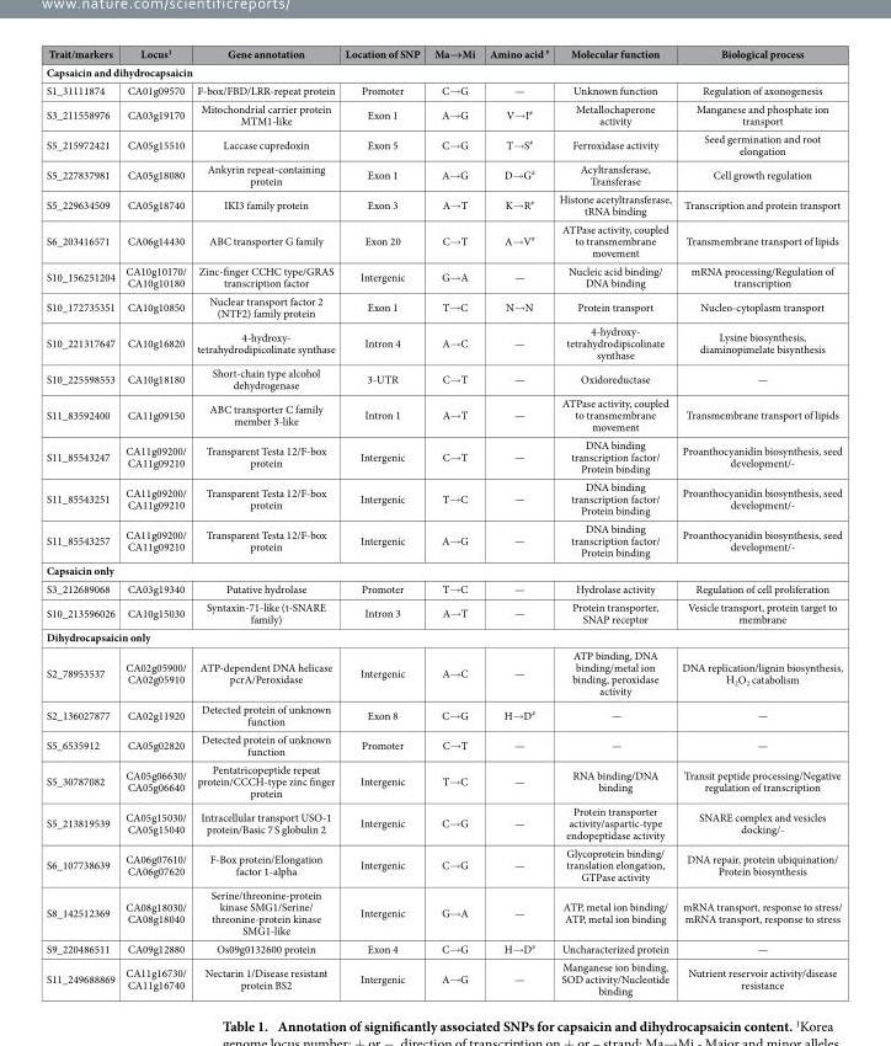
<table><thead><tr><td>Trait/markers</td><td>Locus<sup>1</sup></td><td>Gene annotation</td><td>Location of SNP</td><td>Ma→Mi</td><td>Amino acid <sup>#</sup></td><td>Molecular function</td><td>Biological process</td></tr></thead><tbody><tr><td colspan="8">Capsaicin and dihydrocapsaicin</td></tr><tr><td>S1_31111874</td><td>CA01g09570</td><td>F-box/FBD/LRR-repeat protein</td><td>Promoter</td><td>C→ G</td><td>—</td><td>Unknown function</td><td>Regulation of axonogenesis</td></tr><tr><td>S3_211558976</td><td>CA03g19170</td><td>Mitochondrial carrier protein MTM1-like</td><td>Exon 1</td><td>A→ G</td><td>V→ I<sup>#</sup></td><td>Metallochaperone activity</td><td>Manganese and phosphate ion transport</td></tr><tr><td>S5_215972421</td><td>CA05g15510</td><td>Laccase cupredoxin</td><td>Exon 5</td><td>C→ G</td><td>T→ S<sup>#</sup></td><td>Ferroxidase activity</td><td>Seed germination and root elongation</td></tr><tr><td>S5_227837981</td><td>CA05g18080</td><td>Ankyrin repeat-containing protein</td><td>Exon 1</td><td>A→ G</td><td>D→ G<sup>#</sup></td><td>Acyltransferase, Transferase</td><td>Cell growth regulation</td></tr><tr><td>S5_229634509</td><td>CA05g18740</td><td>IKI3 family protein</td><td>Exon 3</td><td>A→ T</td><td>K→ R<sup>#</sup></td><td>Histone acetyltransferase, tRNA binding</td><td>Transcription and protein transport</td></tr><tr><td>S6_203416571</td><td>CA06g14430</td><td>ABC transporter G family</td><td>Exon 20</td><td>C→ T</td><td>A→ V<sup>#</sup></td><td>ATPase activity, coupled to transmembrane movement</td><td>Transmembrane transport of lipids</td></tr><tr><td>S10_156251204</td><td>CA10g10170/ CA10g10180</td><td>Zinc-finger CCHC type/GRAS transcription factor</td><td>Intergenic</td><td>G→ A</td><td>—</td><td>Nucleic acid binding/ DNA binding</td><td>mRNA processing/Regulation of transcription</td></tr><tr><td>S10_172735351</td><td>CA10g10850</td><td>Nuclear transport factor 2 (NTF2) family protein</td><td>Exon 1</td><td>T→ C</td><td>N→ N</td><td>Protein transport</td><td>Nucleo-cytoplasm transport</td></tr><tr><td>S10_221317647</td><td>CA10g16820</td><td>4-hydroxy- tetrahydrodipicolinate synthase</td><td>Intron 4</td><td>A→ C</td><td>—</td><td>4-hydroxy- tetrahydrodipicolinate synthase</td><td>Lysine biosynthesis, diaminopimelate bisynthesis</td></tr><tr><td>S10_225598553</td><td>CA10g18180</td><td>Short-chain type alcohol dehydrogenase</td><td>3-UTR</td><td>C→ T</td><td>—</td><td>Oxidoreductase</td><td>—</td></tr><tr><td>S11_83592400</td><td>CA11g09150</td><td>ABC transporter C family member 3-like</td><td>Intron 1</td><td>A→ T</td><td>—</td><td>ATPase activity, coupled to transmembrane movement</td><td>Transmembrane transport of lipids</td></tr><tr><td>S11_85543247</td><td>CA11g09200/ CA11g09210</td><td>Transparent Testa 12/F-box protein</td><td>Intergenic</td><td>C→ T</td><td>—</td><td>DNA binding transcription factor/ Protein binding</td><td>Proanthocyanidin biosynthesis, seed development/-</td></tr><tr><td>S11_85543251</td><td>CA11g09200/ CA11g09210</td><td>Transparent Testa 12/F-box protein</td><td>Intergenic</td><td>T→ C</td><td>—</td><td>DNA binding transcription factor/ Protein binding</td><td>Proanthocyanidin biosynthesis, seed development/-</td></tr><tr><td>S11_85543257</td><td>CA11g09200/ CA11g09210</td><td>Transparent Testa 12/F-box protein</td><td>Intergenic</td><td>A→ G</td><td>—</td><td>DNA binding transcription factor/ Protein binding</td><td>Proanthocyanidin biosynthesis, seed development/-</td></tr><tr><td colspan="8">Capsaicin only</td></tr><tr><td>S3_212689068</td><td>CA03g19340</td><td>Putative hydrolase</td><td>Promoter</td><td>T→ C</td><td>—</td><td>Hydrolase activity</td><td>Regulation of cell proliferation</td></tr><tr><td>S10_213596026</td><td>CA10g15030</td><td>Syntaxin-71-like (t-SNARE family)</td><td>Intron 3</td><td>A→ T</td><td>—</td><td>Protein transporter, SNAP receptor</td><td>Vesicle transport, protein target to membrane</td></tr><tr><td colspan="8">Dihydrocapsaicin only</td></tr><tr><td>S2_78953537</td><td>CA02g05900/ CA02g05910</td><td>ATP-dependent DNA helicase pcrA/Peroxidase</td><td>Intergenic</td><td>A→ C</td><td>—</td><td>ATP binding, DNA binding/metal ion binding, peroxidase activity</td><td>DNA replication/lignin biosynthesis, H<sub>2</sub>O<sub>2</sub> catabolism</td></tr><tr><td>S2_136027877</td><td>CA02g11920</td><td>Detected protein of unknown function</td><td>Exon 8</td><td>C→ G</td><td>H→ D<sup>#</sup></td><td>—</td><td>—</td></tr><tr><td>S5_6535912</td><td>CA05g02820</td><td>Detected protein of unknown function</td><td>Promoter</td><td>C→ T</td><td>—</td><td>—</td><td>—</td></tr><tr><td>S5_30787082</td><td>CA05g06630/ CA05g06640</td><td>Pentatricopeptide repeat protein/CCCH-type zinc finger protein</td><td>Intergenic</td><td>T→ C</td><td>—</td><td>RNA binding/DNA binding</td><td>Transit peptide processing/Negative regulation of transcription</td></tr><tr><td>S5_213819539</td><td>CA05g15030/ CA05g15040</td><td>Intracellular transport USO-1 protein/Basic 7 S globulin 2</td><td>Intergenic</td><td>C→ G</td><td>—</td><td>Protein transporter activity/aspartic-type endopeptidase activity</td><td>SNARE complex and vesicles docking/-</td></tr><tr><td>S6_107738639</td><td>CA06g07610/ CA06g07620</td><td>F-Box protein/Elongation factor 1-alpha</td><td>Intergenic</td><td>C→ G</td><td>—</td><td>Glycoprotein binding/ translation elongation, GTPase activity</td><td>DNA repair, protein ubiquination/ Protein biosynthesis</td></tr><tr><td>S8_142512369</td><td>CA08g18030/ CA08g18040</td><td>Serine/threonine-protein kinase SMG1/Serine/ threonine-protein kinase SMG1-like</td><td>Intergenic</td><td>G→ A</td><td>—</td><td>ATP, metal ion binding/ ATP, metal ion binding</td><td>mRNA transport, response to stress/ mRNA transport, response to stress</td></tr><tr><td>S9_220486511</td><td>CA09g12880</td><td>Os09g0132600 protein</td><td>Exon 4</td><td>C→ G</td><td>H→ D<sup>#</sup></td><td>Uncharacterized protein</td><td>—</td></tr><tr><td>S11_249688869</td><td>CA11g16730/ CA11g16740</td><td>Nectarin 1/Disease resistant protein BS2</td><td>Intergenic</td><td>A→ G</td><td>—</td><td>Manganese ion binding, SOD activity/Nucleotide binding</td><td>Nutrient reservoir activity/disease resistance</td></tr></tbody></table>